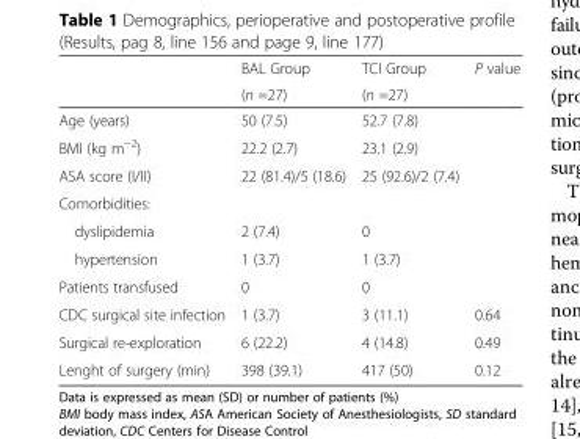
<table><thead><tr><td rowspan="2"></td><td rowspan="2">BAL Group (n =27)</td><td rowspan="2">TCI Group (n =27)</td><td rowspan="2">P value</td></tr><tr></tr></thead><tbody><tr><td>Age (years)</td><td>50 (7.5)</td><td>52.7 (7.8)</td><td></td></tr><tr><td>BMI (kg m<sup>−2</sup>)</td><td>22.2 (2.7)</td><td>23.1 (2.9)</td><td></td></tr><tr><td>ASA score (I/II)</td><td>22 (81.4)/5 (18.6)</td><td>25 (92.6)/2 (7.4)</td><td></td></tr><tr><td colspan="4">Comorbidities:</td></tr><tr><td>dyslipidemia</td><td>2 (7.4)</td><td>0</td><td></td></tr><tr><td>hypertension</td><td>1 (3.7)</td><td>1 (3.7)</td><td></td></tr><tr><td>Patients transfused</td><td>0</td><td>0</td><td></td></tr><tr><td>CDC surgical site infection</td><td>1 (3.7)</td><td>3 (11.1)</td><td>0.64</td></tr><tr><td>Surgical re-exploration</td><td>6 (22.2)</td><td>4 (14.8)</td><td>0.49</td></tr><tr><td>Lenght of surgery (min)</td><td>398 (39.1)</td><td>417 (50)</td><td>0.12</td></tr></tbody></table>